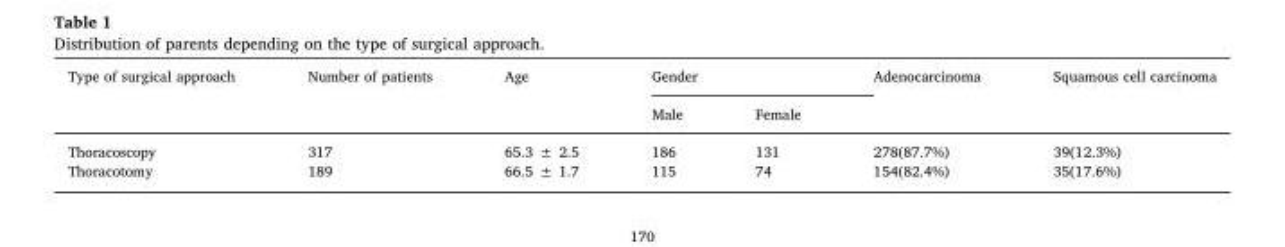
<table><thead><tr><td rowspan="2">Type of surgical approach</td><td rowspan="2">Number of patients</td><td rowspan="2">Age</td><td colspan="2">Gender</td><td rowspan="2">Adenocarcinoma</td><td rowspan="2">Squamous cell carcinoma</td></tr><tr><td>Male</td><td>Female</td></tr></thead><tbody><tr><td>Thoracoscopy</td><td>317</td><td>65.3 ± 2.5</td><td>186</td><td>131</td><td>278(87.7%)</td><td>39(12.3%)</td></tr><tr><td>Thoracotomy</td><td>189</td><td>66.5 ± 1.7</td><td>115</td><td>74</td><td>154(82.4%)</td><td>35(17.6%)</td></tr></tbody></table>